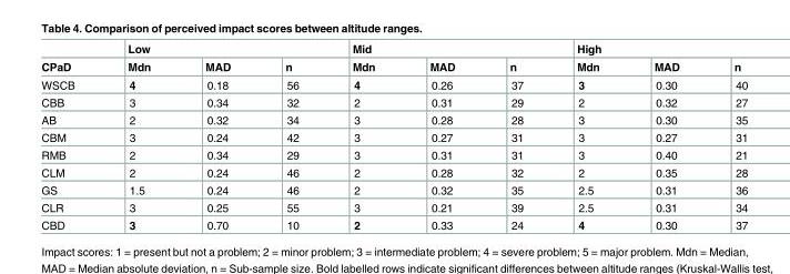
<table><thead><tr><td rowspan="2">CPaD</td><td colspan="3">Low</td><td colspan="3">Mid</td><td colspan="3">High</td></tr><tr><td>Mdn</td><td>MAD</td><td>n</td><td>Mdn</td><td>MAD</td><td>n</td><td>Mdn</td><td>MAD</td><td>n</td></tr></thead><tbody><tr><td>WSCB</td><td>4</td><td>0.18</td><td>56</td><td>4</td><td>0.26</td><td>37</td><td>3</td><td>0.30</td><td>40</td></tr><tr><td>CBB</td><td>3</td><td>0.34</td><td>32</td><td>2</td><td>0.31</td><td>29</td><td>2</td><td>0.32</td><td>27</td></tr><tr><td>AB</td><td>2</td><td>0.32</td><td>34</td><td>3</td><td>0.28</td><td>28</td><td>3</td><td>0.30</td><td>35</td></tr><tr><td>CBM</td><td>3</td><td>0.24</td><td>42</td><td>3</td><td>0.27</td><td>31</td><td>3</td><td>0.27</td><td>31</td></tr><tr><td>RMB</td><td>2</td><td>0.34</td><td>29</td><td>3</td><td>0.31</td><td>31</td><td>3</td><td>0.40</td><td>21</td></tr><tr><td>CLM</td><td>2</td><td>0.24</td><td>46</td><td>2</td><td>0.28</td><td>32</td><td>2</td><td>0.35</td><td>28</td></tr><tr><td>GS</td><td>1.5</td><td>0.24</td><td>46</td><td>2</td><td>0.32</td><td>35</td><td>2.5</td><td>0.31</td><td>36</td></tr><tr><td>CLR</td><td>3</td><td>0.25</td><td>55</td><td>3</td><td>0.21</td><td>39</td><td>2.5</td><td>0.31</td><td>34</td></tr><tr><td>CBD</td><td>3</td><td>0.70</td><td>10</td><td>2</td><td>0.33</td><td>24</td><td>4</td><td>0.30</td><td>37</td></tr></tbody></table>